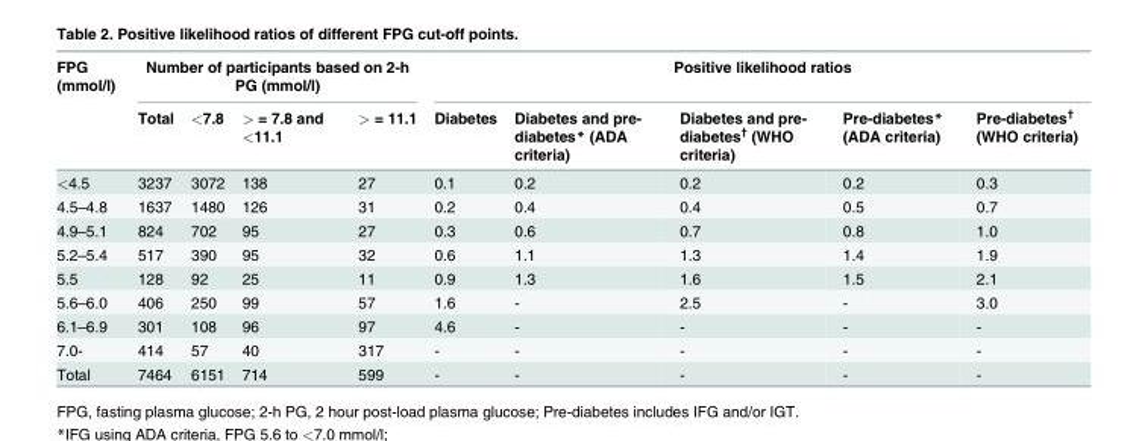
<table><thead><tr><td rowspan="2">FPG (mmol/l)</td><td colspan="4">Number of participants based on 2-h PG (mmol/l)</td><td colspan="5">Positive likelihood ratios</td></tr><tr><td>Total</td><td>&lt;7.8</td><td>&gt; = 7.8 and &lt;11.1</td><td>&gt; = 11.1</td><td>Diabetes</td><td>Diabetes and pre- diabetes* (ADA criteria)</td><td>Diabetes and pre- diabetes<sup>†</sup> (WHO criteria)</td><td>Pre-diabetes* (ADA criteria)</td><td>Pre-diabetes<sup>†</sup> (WHO criteria)</td></tr></thead><tbody><tr><td>&lt;4.5</td><td>3237</td><td>3072</td><td>138</td><td>27</td><td>0.1</td><td>0.2</td><td>0.2</td><td>0.2</td><td>0.3</td></tr><tr><td>4.5–4.8</td><td>1637</td><td>1480</td><td>126</td><td>31</td><td>0.2</td><td>0.4</td><td>0.4</td><td>0.5</td><td>0.7</td></tr><tr><td>4.9–5.1</td><td>824</td><td>702</td><td>95</td><td>27</td><td>0.3</td><td>0.6</td><td>0.7</td><td>0.8</td><td>1.0</td></tr><tr><td>5.2–5.4</td><td>517</td><td>390</td><td>95</td><td>32</td><td>0.6</td><td>1.1</td><td>1.3</td><td>1.4</td><td>1.9</td></tr><tr><td>5.5</td><td>128</td><td>92</td><td>25</td><td>11</td><td>0.9</td><td>1.3</td><td>1.6</td><td>1.5</td><td>2.1</td></tr><tr><td>5.6–6.0</td><td>406</td><td>250</td><td>99</td><td>57</td><td>1.6</td><td>-</td><td>2.5</td><td>-</td><td>3.0</td></tr><tr><td>6.1–6.9</td><td>301</td><td>108</td><td>96</td><td>97</td><td>4.6</td><td>-</td><td>-</td><td>-</td><td>-</td></tr><tr><td>7.0-</td><td>414</td><td>57</td><td>40</td><td>317</td><td>-</td><td>-</td><td>-</td><td>-</td><td>-</td></tr><tr><td>Total</td><td>7464</td><td>6151</td><td>714</td><td>599</td><td>-</td><td>-</td><td>-</td><td>-</td><td>-</td></tr></tbody></table>